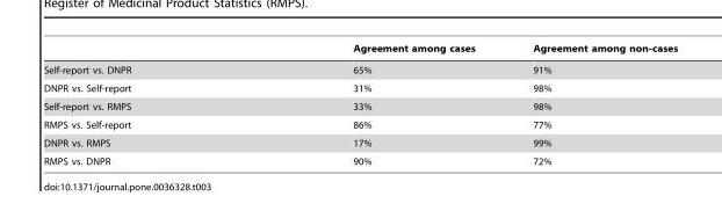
<table><thead><tr><td></td><td>Agreement among cases</td><td>Agreement among non-cases</td></tr></thead><tbody><tr><td>Self-report vs. DNPR</td><td>65%</td><td>91%</td></tr><tr><td>DNPR vs. Self-report</td><td>31%</td><td>98%</td></tr><tr><td>Self-report vs. RMPS</td><td>33%</td><td>98%</td></tr><tr><td>RMPS vs. Self-report</td><td>86%</td><td>77%</td></tr><tr><td>DNPR vs. RMPS</td><td>17%</td><td>99%</td></tr><tr><td>RMPS vs. DNPR</td><td>90%</td><td>72%</td></tr></tbody></table>